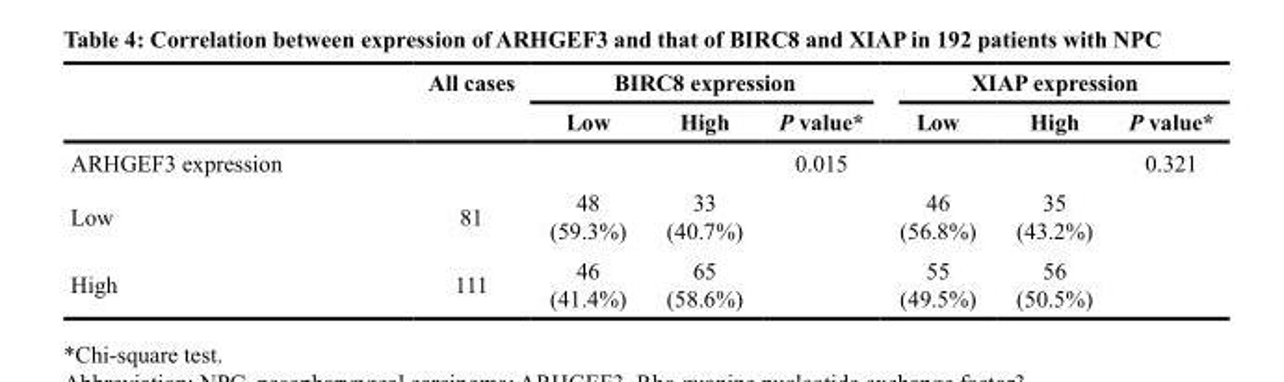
<table><thead><tr><td rowspan="2"></td><td rowspan="2">All cases</td><td colspan="3">BIRC8 expression</td><td colspan="3">XIAP expression</td></tr><tr><td>Low</td><td>High</td><td>P value*</td><td>Low</td><td>High</td><td>P value*</td></tr></thead><tbody><tr><td>ARHGEF3 expression</td><td></td><td></td><td></td><td>0.015</td><td></td><td></td><td>0.321</td></tr><tr><td>Low</td><td>81</td><td>48 (59.3%)</td><td>33 (40.7%)</td><td></td><td>46 (56.8%)</td><td>35 (43.2%)</td><td></td></tr><tr><td>High</td><td>111</td><td>46 (41.4%)</td><td>65 (58.6%)</td><td></td><td>55 (49.5%)</td><td>56 (50.5%)</td><td></td></tr></tbody></table>